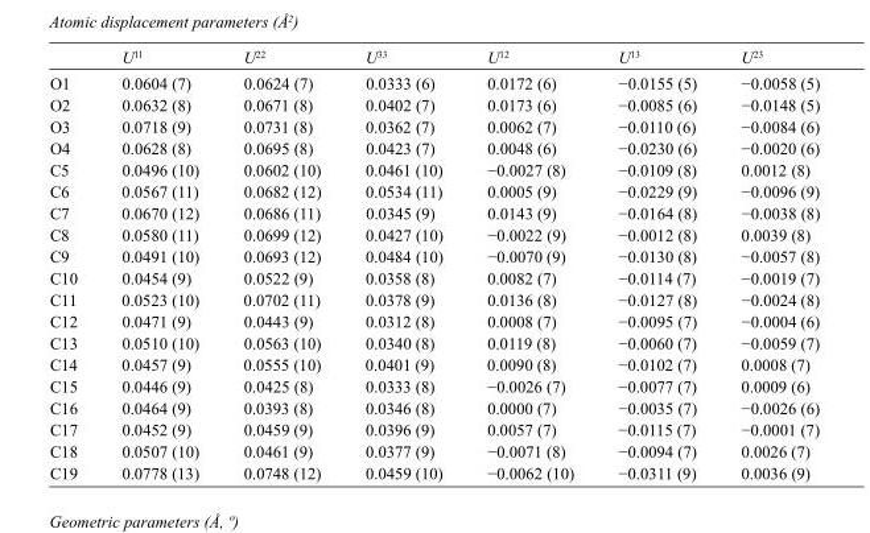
<table><thead><tr><td></td><td>U<sup>11</sup></td><td>U<sup>22</sup></td><td>U<sup>33</sup></td><td>U<sup>12</sup></td><td>U<sup>13</sup></td><td>U<sup>23</sup></td></tr></thead><tbody><tr><td>O1</td><td>0.0604 (7)</td><td>0.0624 (7)</td><td>0.0333 (6)</td><td>0.0172 (6)</td><td>−0.0155 (5)</td><td>−0.0058 (5)</td></tr><tr><td>O2</td><td>0.0632 (8)</td><td>0.0671 (8)</td><td>0.0402 (7)</td><td>0.0173 (6)</td><td>−0.0085 (6)</td><td>−0.0148 (5)</td></tr><tr><td>O3</td><td>0.0718 (9)</td><td>0.0731 (8)</td><td>0.0362 (7)</td><td>0.0062 (7)</td><td>−0.0110 (6)</td><td>−0.0084 (6)</td></tr><tr><td>O4</td><td>0.0628 (8)</td><td>0.0695 (8)</td><td>0.0423 (7)</td><td>0.0048 (6)</td><td>−0.0230 (6)</td><td>−0.0020 (6)</td></tr><tr><td>C5</td><td>0.0496 (10)</td><td>0.0602 (10)</td><td>0.0461 (10)</td><td>−0.0027 (8)</td><td>−0.0109 (8)</td><td>0.0012 (8)</td></tr><tr><td>C6</td><td>0.0567 (11)</td><td>0.0682 (12)</td><td>0.0534 (11)</td><td>0.0005 (9)</td><td>−0.0229 (9)</td><td>−0.0096 (9)</td></tr><tr><td>C7</td><td>0.0670 (12)</td><td>0.0686 (11)</td><td>0.0345 (9)</td><td>0.0143 (9)</td><td>−0.0164 (8)</td><td>−0.0038 (8)</td></tr><tr><td>C8</td><td>0.0580 (11)</td><td>0.0699 (12)</td><td>0.0427 (10)</td><td>−0.0022 (9)</td><td>−0.0012 (8)</td><td>0.0039 (8)</td></tr><tr><td>C9</td><td>0.0491 (10)</td><td>0.0693 (12)</td><td>0.0484 (10)</td><td>−0.0070 (9)</td><td>−0.0130 (8)</td><td>−0.0057 (8)</td></tr><tr><td>C10</td><td>0.0454 (9)</td><td>0.0522 (9)</td><td>0.0358 (8)</td><td>0.0082 (7)</td><td>−0.0114 (7)</td><td>−0.0019 (7)</td></tr><tr><td>C11</td><td>0.0523 (10)</td><td>0.0702 (11)</td><td>0.0378 (9)</td><td>0.0136 (8)</td><td>−0.0127 (8)</td><td>−0.0024 (8)</td></tr><tr><td>C12</td><td>0.0471 (9)</td><td>0.0443 (9)</td><td>0.0312 (8)</td><td>0.0008 (7)</td><td>−0.0095 (7)</td><td>−0.0004 (6)</td></tr><tr><td>C13</td><td>0.0510 (10)</td><td>0.0563 (10)</td><td>0.0340 (8)</td><td>0.0119 (8)</td><td>−0.0060 (7)</td><td>−0.0059 (7)</td></tr><tr><td>C14</td><td>0.0457 (9)</td><td>0.0555 (10)</td><td>0.0401 (9)</td><td>0.0090 (8)</td><td>−0.0102 (7)</td><td>0.0008 (7)</td></tr><tr><td>C15</td><td>0.0446 (9)</td><td>0.0425 (8)</td><td>0.0333 (8)</td><td>−0.0026 (7)</td><td>−0.0077 (7)</td><td>0.0009 (6)</td></tr><tr><td>C16</td><td>0.0464 (9)</td><td>0.0393 (8)</td><td>0.0346 (8)</td><td>0.0000 (7)</td><td>−0.0035 (7)</td><td>−0.0026 (6)</td></tr><tr><td>C17</td><td>0.0452 (9)</td><td>0.0459 (9)</td><td>0.0396 (9)</td><td>0.0057 (7)</td><td>−0.0115 (7)</td><td>−0.0001 (7)</td></tr><tr><td>C18</td><td>0.0507 (10)</td><td>0.0461 (9)</td><td>0.0377 (9)</td><td>−0.0071 (8)</td><td>−0.0094 (7)</td><td>0.0026 (7)</td></tr><tr><td>C19</td><td>0.0778 (13)</td><td>0.0748 (12)</td><td>0.0459 (10)</td><td>−0.0062 (10)</td><td>−0.0311 (9)</td><td>0.0036 (9)</td></tr></tbody></table>